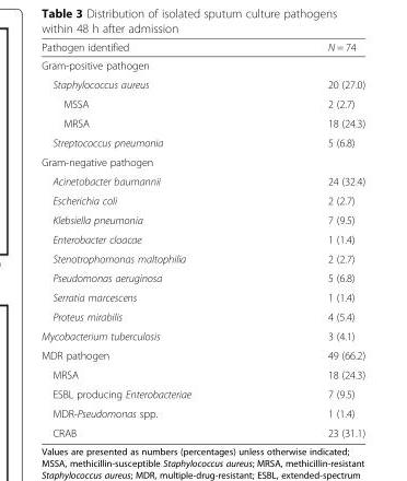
<table><thead><tr><td>Pathogen identified</td><td>N = 74</td></tr></thead><tbody><tr><td colspan="2">Gram-positive pathogen</td></tr><tr><td>Staphylococcus aureus</td><td>20 (27.0)</td></tr><tr><td>MSSA</td><td>2 (2.7)</td></tr><tr><td>MRSA</td><td>18 (24.3)</td></tr><tr><td>Streptococcus pneumonia</td><td>5 (6.8)</td></tr><tr><td colspan="2">Gram-negative pathogen</td></tr><tr><td>Acinetobacter baumannii</td><td>24 (32.4)</td></tr><tr><td>Escherichia coli</td><td>2 (2.7)</td></tr><tr><td>Klebsiella pneumonia</td><td>7 (9.5)</td></tr><tr><td>Enterobacter cloacae</td><td>1 (1.4)</td></tr><tr><td>Stenotrophomonas maltophilia</td><td>2 (2.7)</td></tr><tr><td>Pseudomonas aeruginosa</td><td>5 (6.8)</td></tr><tr><td>Serratia marcescens</td><td>1 (1.4)</td></tr><tr><td>Proteus mirabilis</td><td>4 (5.4)</td></tr><tr><td>Mycobacterium tuberculosis</td><td>3 (4.1)</td></tr><tr><td>MDR pathogen</td><td>49 (66.2)</td></tr><tr><td>MRSA</td><td>18 (24.3)</td></tr><tr><td>ESBL producing Enterobacteriae</td><td>7 (9.5)</td></tr><tr><td>MDR-Pseudomonas spp.</td><td>1 (1.4)</td></tr><tr><td>CRAB</td><td>23 (31.1)</td></tr></tbody></table>